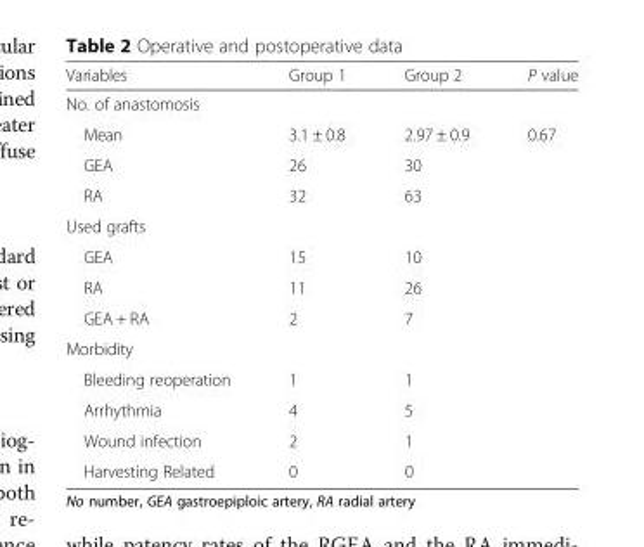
<table><thead><tr><td>Variables</td><td>Group 1</td><td>Group 2</td><td>P value</td></tr></thead><tbody><tr><td colspan="4">No. of anastomosis</td></tr><tr><td>Mean</td><td>3.1 ± 0.8</td><td>2.97 ± 0.9</td><td>0.67</td></tr><tr><td>GEA</td><td>26</td><td>30</td><td></td></tr><tr><td>RA</td><td>32</td><td>63</td><td></td></tr><tr><td colspan="4">Used grafts</td></tr><tr><td>GEA</td><td>15</td><td>10</td><td></td></tr><tr><td>RA</td><td>11</td><td>26</td><td></td></tr><tr><td>GEA + RA</td><td>2</td><td>7</td><td></td></tr><tr><td colspan="4">Morbidity</td></tr><tr><td>Bleeding reoperation</td><td>1</td><td>1</td><td></td></tr><tr><td>Arrhythmia</td><td>4</td><td>5</td><td></td></tr><tr><td>Wound infection</td><td>2</td><td>1</td><td></td></tr><tr><td>Harvesting Related</td><td>0</td><td>0</td><td></td></tr></tbody></table>